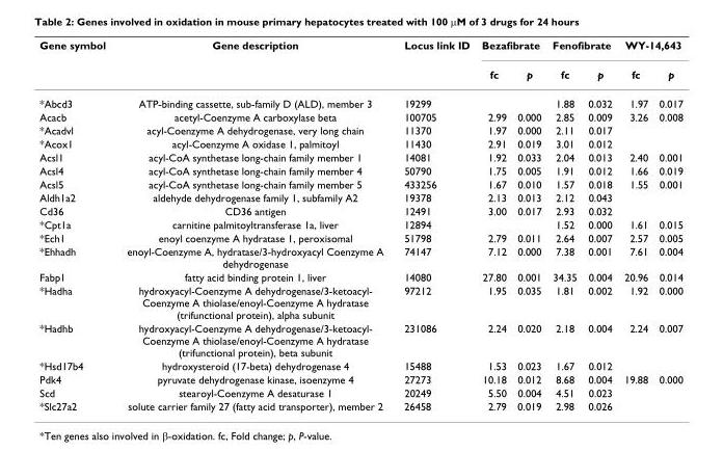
<table><thead><tr><td rowspan="2">Gene symbol</td><td rowspan="2">Gene description</td><td rowspan="2">Locus link ID</td><td colspan="2">Bezafibrate</td><td colspan="2">Fenofibrate</td><td colspan="2">WY-14,643</td></tr><tr><td>fc</td><td>p</td><td>fc</td><td>p</td><td>fc</td><td>p</td></tr></thead><tbody><tr><td>*Abcd3</td><td>ATP-binding cassette, sub-family D (ALD), member 3</td><td>19299</td><td></td><td></td><td>1.88</td><td>0.032</td><td>1.97</td><td>0.017</td></tr><tr><td>Acacb</td><td>acetyl-Coenzyme A carboxylase beta</td><td>100705</td><td>2.99</td><td>0.000</td><td>2.85</td><td>0.009</td><td>3.26</td><td>0.008</td></tr><tr><td>*Acadvl</td><td>acyl-Coenzyme A dehydrogenase, very long chain</td><td>11370</td><td>1.97</td><td>0.000</td><td>2.11</td><td>0.017</td><td></td><td></td></tr><tr><td>*Acox1</td><td>acyl-Coenzyme A oxidase 1, palmitoyl</td><td>11430</td><td>2.91</td><td>0.019</td><td>3.01</td><td>0.012</td><td></td><td></td></tr><tr><td>Acsl1</td><td>acyl-CoA synthetase long-chain family member 1</td><td>14081</td><td>1.92</td><td>0.033</td><td>2.04</td><td>0.013</td><td>2.40</td><td>0.001</td></tr><tr><td>Acsl4</td><td>acyl-CoA synthetase long-chain family member 4</td><td>50790</td><td>1.75</td><td>0.005</td><td>1.91</td><td>0.012</td><td>1.66</td><td>0.019</td></tr><tr><td>Acsl5</td><td>acyl-CoA synthetase long-chain family member 5</td><td>433256</td><td>1.67</td><td>0.010</td><td>1.57</td><td>0.018</td><td>1.55</td><td>0.001</td></tr><tr><td>Aldh1a2</td><td>aldehyde dehydrogenase family 1, subfamily A2</td><td>19378</td><td>2.13</td><td>0.013</td><td>2.12</td><td>0.043</td><td></td><td></td></tr><tr><td>Cd36</td><td>CD36 antigen</td><td>12491</td><td>3.00</td><td>0.017</td><td>2.93</td><td>0.032</td><td></td><td></td></tr><tr><td>*Cpt1a</td><td>carnitine palmitoyltransferase 1a, liver</td><td>12894</td><td></td><td></td><td>1.52</td><td>0.000</td><td>1.61</td><td>0.015</td></tr><tr><td>*Ech1</td><td>enoyl coenzyme A hydratase 1, peroxisomal</td><td>51798</td><td>2.79</td><td>0.011</td><td>2.64</td><td>0.007</td><td>2.57</td><td>0.005</td></tr><tr><td>*Ehhadh</td><td>enoyl-Coenzyme A, hydratase/3-hydroxyacyl Coenzyme A dehydrogenase</td><td>74147</td><td>7.12</td><td>0.000</td><td>7.38</td><td>0.001</td><td>7.61</td><td>0.004</td></tr><tr><td>Fabp1</td><td>fatty acid binding protein 1, liver</td><td>14080</td><td>27.80</td><td>0.001</td><td>34.35</td><td>0.004</td><td>20.96</td><td>0.014</td></tr><tr><td>*Hadha</td><td>hydroxyacyl-Coenzyme A dehydrogenase/3-ketoacyl- Coenzyme A thiolase/enoyl-Coenzyme A hydratase (trifunctional protein), alpha subunit</td><td>97212</td><td>1.95</td><td>0.035</td><td>1.81</td><td>0.002</td><td>1.92</td><td>0.000</td></tr><tr><td>*Hadhb</td><td>hydroxyacyl-Coenzyme A dehydrogenase/3-ketoacyl- Coenzyme A thiolase/enoyl-Coenzyme A hydratase (trifunctional protein), beta subunit</td><td>231086</td><td>2.24</td><td>0.020</td><td>2.18</td><td>0.004</td><td>2.24</td><td>0.007</td></tr><tr><td>*Hsd17b4</td><td>hydroxysteroid (17-beta) dehydrogenase 4</td><td>15488</td><td>1.53</td><td>0.023</td><td>1.67</td><td>0.012</td><td></td><td></td></tr><tr><td>Pdk4</td><td>pyruvate dehydrogenase kinase, isoenzyme 4</td><td>27273</td><td>10.18</td><td>0.012</td><td>8.68</td><td>0.004</td><td>19.88</td><td>0.000</td></tr><tr><td>Scd</td><td>stearoyl-Coenzyme A desaturase 1</td><td>20249</td><td>5.50</td><td>0.004</td><td>4.51</td><td>0.023</td><td></td><td></td></tr><tr><td>*Slc27a2</td><td>solute carrier family 27 (fatty acid transporter), member 2</td><td>26458</td><td>2.79</td><td>0.019</td><td>2.98</td><td>0.026</td><td></td><td></td></tr></tbody></table>